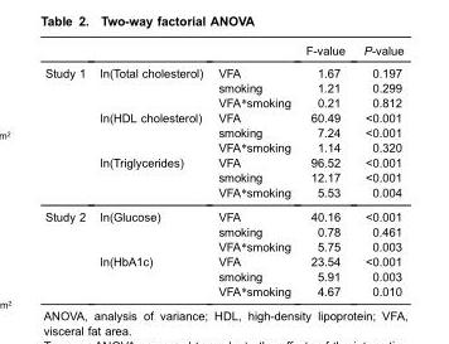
<table><thead><tr><td></td><td></td><td></td><td>F-value</td><td>P-value</td></tr></thead><tbody><tr><td rowspan="9">Study 1</td><td rowspan="3">ln(Total cholesterol)</td><td>VFA</td><td>1.67</td><td>0.197</td></tr><tr><td>smoking</td><td>1.21</td><td>0.299</td></tr><tr><td>VFA*smoking</td><td>0.21</td><td>0.812</td></tr><tr><td rowspan="3">ln(HDL cholesterol)</td><td>VFA</td><td>60.49</td><td>&lt;0.001</td></tr><tr><td>smoking</td><td>7.24</td><td>&lt;0.001</td></tr><tr><td>VFA*smoking</td><td>1.14</td><td>0.320</td></tr><tr><td rowspan="3">ln(Triglycerides)</td><td>VFA</td><td>96.52</td><td>&lt;0.001</td></tr><tr><td>smoking</td><td>12.17</td><td>&lt;0.001</td></tr><tr><td>VFA*smoking</td><td>5.53</td><td>0.004</td></tr><tr><td rowspan="6">Study 2</td><td rowspan="3">ln(Glucose)</td><td>VFA</td><td>40.16</td><td>&lt;0.001</td></tr><tr><td>smoking</td><td>0.78</td><td>0.461</td></tr><tr><td>VFA*smoking</td><td>5.75</td><td>0.003</td></tr><tr><td rowspan="3">ln(HbA1c)</td><td>VFA</td><td>23.54</td><td>&lt;0.001</td></tr><tr><td>smoking</td><td>5.91</td><td>0.003</td></tr><tr><td>VFA*smoking</td><td>4.67</td><td>0.010</td></tr></tbody></table>